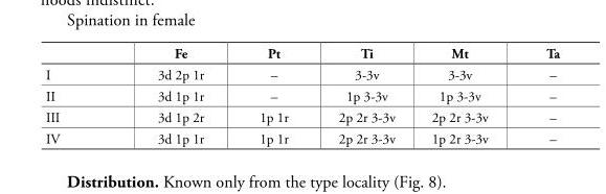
<table><thead><tr><td></td><td>Fe</td><td>Pt</td><td>Ti</td><td>Mt</td><td>Ta</td></tr></thead><tbody><tr><td>I</td><td>3d 2p 1r</td><td>–</td><td>3-3v</td><td>3-3v</td><td>–</td></tr><tr><td>II</td><td>3d 1p 1r</td><td>–</td><td>1p 3-3v</td><td>1p 3-3v</td><td>–</td></tr><tr><td>III</td><td>3d 1p 2r</td><td>1p 1r</td><td>2p 2r 3-3v</td><td>2p 2r 3-3v</td><td>–</td></tr><tr><td>IV</td><td>3d 1p 1r</td><td>1p 1r</td><td>2p 2r 3-3v</td><td>1p 2r 3-3v</td><td>–</td></tr></tbody></table>